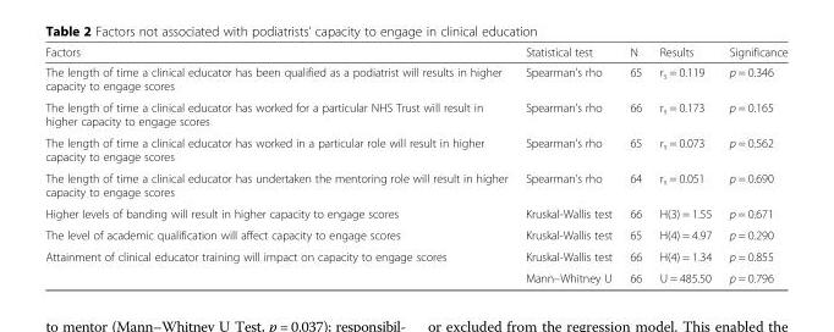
<table><thead><tr><td>Factors</td><td>Statistical test</td><td>N</td><td>Results</td><td>Significance</td></tr></thead><tbody><tr><td>The length of time a clinical educator has been qualified as a podiatrist will results in higher capacity to engage scores</td><td>Spearman’s rho</td><td>65</td><td>r<sub>s</sub> = 0.119</td><td>p = 0.346</td></tr><tr><td>The length of time a clinical educator has worked for a particular NHS Trust will result in higher capacity to engage scores</td><td>Spearman’s rho</td><td>66</td><td>r<sub>s</sub> = 0.173</td><td>p = 0.165</td></tr><tr><td>The length of time a clinical educator has worked in a particular role will result in higher capacity to engage scores</td><td>Spearman’s rho</td><td>65</td><td>r<sub>s</sub> = 0.073</td><td>p = 0.562</td></tr><tr><td>The length of time a clinical educator has undertaken the mentoring role will result in higher capacity to engage scores</td><td>Spearman’s rho</td><td>64</td><td>r<sub>s</sub> = 0.051</td><td>p = 0.690</td></tr><tr><td>Higher levels of banding will result in higher capacity to engage scores</td><td>Kruskal-Wallis test</td><td>66</td><td>H(3) = 1.55</td><td>p = 0.671</td></tr><tr><td>The level of academic qualification will affect capacity to engage scores</td><td>Kruskal-Wallis test</td><td>65</td><td>H(4) = 4.97</td><td>p = 0.290</td></tr><tr><td rowspan="2">Attainment of clinical educator training will impact on capacity to engage scores</td><td>Kruskal-Wallis test</td><td>66</td><td>H(4) = 1.34</td><td>p = 0.855</td></tr><tr><td>Mann–Whitney U</td><td>66</td><td>U = 485.50</td><td>p = 0.796</td></tr></tbody></table>